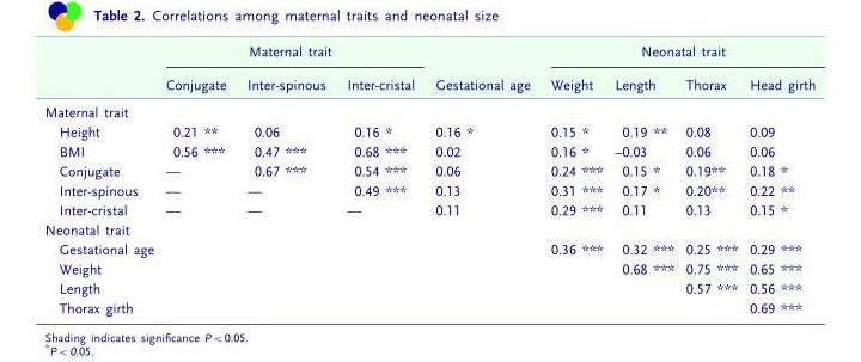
<table><thead><tr><td rowspan="2"></td><td colspan="3">Maternal trait</td><td rowspan="2">Gestational age</td><td colspan="4">Neonatal trait</td></tr><tr><td>Conjugate</td><td>Inter-spinous</td><td>Inter-cristal</td><td>Weight</td><td>Length</td><td>Thorax</td><td>Head girth</td></tr></thead><tbody><tr><td colspan="9">Maternal trait</td></tr><tr><td>Height</td><td>0.21 **</td><td>0.06</td><td>0.16 *</td><td>0.16 *</td><td>0.15 *</td><td>0.19 **</td><td>0.08</td><td>0.09</td></tr><tr><td>BMI</td><td>0.56 ***</td><td>0.47 ***</td><td>0.68 ***</td><td>0.02</td><td>0.16 *</td><td>–0.03</td><td>0.06</td><td>0.06</td></tr><tr><td>Conjugate</td><td>––</td><td>0.67 ***</td><td>0.54 ***</td><td>0.06</td><td>0.24 ***</td><td>0.15 *</td><td>0.19**</td><td>0.18 *</td></tr><tr><td>Inter-spinous</td><td>––</td><td>––</td><td>0.49 ***</td><td>0.13</td><td>0.31 ***</td><td>0.17 *</td><td>0.20**</td><td>0.22 **</td></tr><tr><td>Inter-cristal</td><td>––</td><td>––</td><td>––</td><td>0.11</td><td>0.29 ***</td><td>0.11</td><td>0.13</td><td>0.15 *</td></tr><tr><td colspan="9">Neonatal trait</td></tr><tr><td>Gestational age</td><td></td><td></td><td></td><td></td><td>0.36 ***</td><td>0.32 ***</td><td>0.25 ***</td><td>0.29 ***</td></tr><tr><td>Weight</td><td></td><td></td><td></td><td></td><td></td><td>0.68 ***</td><td>0.75 ***</td><td>0.65 ***</td></tr><tr><td>Length</td><td></td><td></td><td></td><td></td><td></td><td></td><td>0.57 ***</td><td>0.56 ***</td></tr><tr><td>Thorax girth</td><td></td><td></td><td></td><td></td><td></td><td></td><td></td><td>0.69 ***</td></tr></tbody></table>